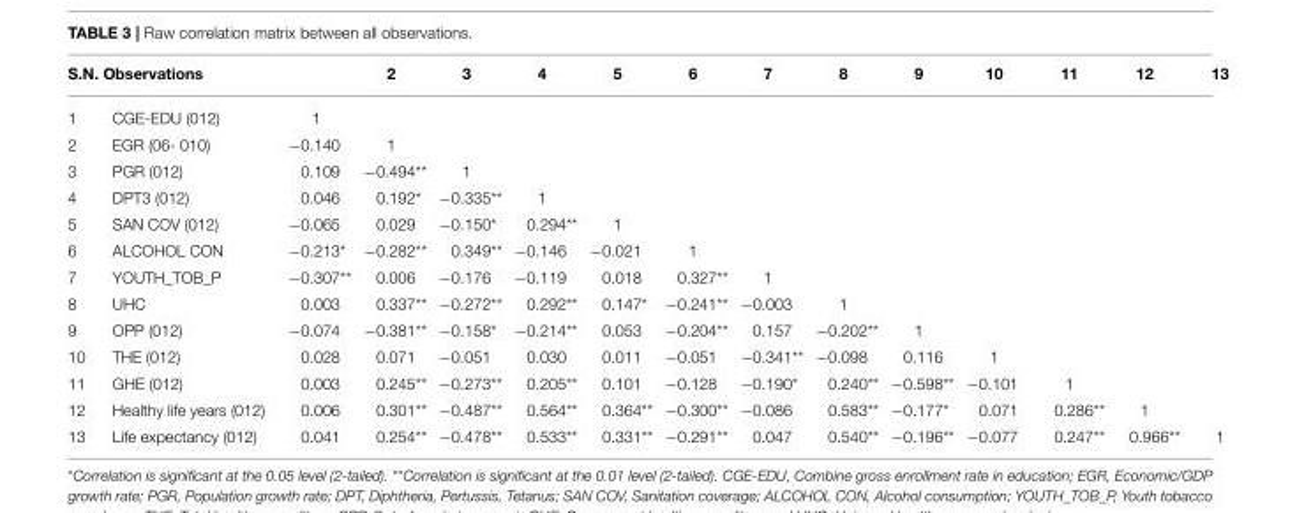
<table><thead><tr><td colspan="2">S.N. Observations</td><td rowspan="2">1</td><td rowspan="2">2</td><td rowspan="2">3</td><td rowspan="2">4</td><td rowspan="2">5</td><td rowspan="2">6</td><td rowspan="2">7</td><td rowspan="2">8</td><td rowspan="2">9</td><td rowspan="2">10</td><td rowspan="2">11</td><td rowspan="2">12</td><td rowspan="2">13</td></tr><tr><td>1</td><td>CGE-EDU (012)</td></tr></thead><tbody><tr><td>2</td><td>EGR (06- 010)</td><td>−0.140</td><td>1</td><td></td><td></td><td></td><td></td><td></td><td></td><td></td><td></td><td></td><td></td><td></td></tr><tr><td>3</td><td>PGR (012)</td><td>0.109</td><td>−0.494**</td><td>1</td><td></td><td></td><td></td><td></td><td></td><td></td><td></td><td></td><td></td><td></td></tr><tr><td>4</td><td>DPT3 (012)</td><td>0.046</td><td>0.192*</td><td>−0.335**</td><td>1</td><td></td><td></td><td></td><td></td><td></td><td></td><td></td><td></td><td></td></tr><tr><td>5</td><td>SAN COV (012)</td><td>−0.065</td><td>0.029</td><td>−0.150*</td><td>0.294**</td><td>1</td><td></td><td></td><td></td><td></td><td></td><td></td><td></td><td></td></tr><tr><td>6</td><td>ALCOHOL CON</td><td>−0.213*</td><td>−0.282**</td><td>0.349**</td><td>−0.146</td><td>−0.021</td><td>1</td><td></td><td></td><td></td><td></td><td></td><td></td><td></td></tr><tr><td>7</td><td>YOUTH_TOB_P</td><td>−0.307**</td><td>0.006</td><td>−0.176</td><td>−0.119</td><td>0.018</td><td>0.327**</td><td>1</td><td></td><td></td><td></td><td></td><td></td><td></td></tr><tr><td>8</td><td>UHC</td><td>0.003</td><td>0.337**</td><td>−0.272**</td><td>0.292**</td><td>0.147*</td><td>−0.241**</td><td>−0.003</td><td>1</td><td></td><td></td><td></td><td></td><td></td></tr><tr><td>9</td><td>OPP (012)</td><td>−0.074</td><td>−0.381**</td><td>−0.158*</td><td>−0.214**</td><td>0.053</td><td>−0.204**</td><td>0.157</td><td>−0.202**</td><td>1</td><td></td><td></td><td></td><td></td></tr><tr><td>10</td><td>THE (012)</td><td>0.028</td><td>0.071</td><td>−0.051</td><td>0.030</td><td>0.011</td><td>−0.051</td><td>−0.341**</td><td>−0.098</td><td>0.116</td><td>1</td><td></td><td></td><td></td></tr><tr><td>11</td><td>GHE (012)</td><td>0.003</td><td>0.245**</td><td>−0.273**</td><td>0.205**</td><td>0.101</td><td>−0.128</td><td>−0.190*</td><td>0.240**</td><td>−0.598**</td><td>−0.101</td><td>1</td><td></td><td></td></tr><tr><td>12</td><td>Healthy life years (012)</td><td>0.006</td><td>0.301**</td><td>−0.487**</td><td>0.564**</td><td>0.364**</td><td>−0.300**</td><td>−0.086</td><td>0.583**</td><td>−0.177*</td><td>0.071</td><td>0.286**</td><td>1</td><td></td></tr><tr><td>13</td><td>Life expectancy (012)</td><td>0.041</td><td>0.254**</td><td>−0.478**</td><td>0.533**</td><td>0.331**</td><td>−0.291**</td><td>0.047</td><td>0.540**</td><td>−0.196**</td><td>−0.077</td><td>0.247**</td><td>0.966**</td><td>1</td></tr></tbody></table>